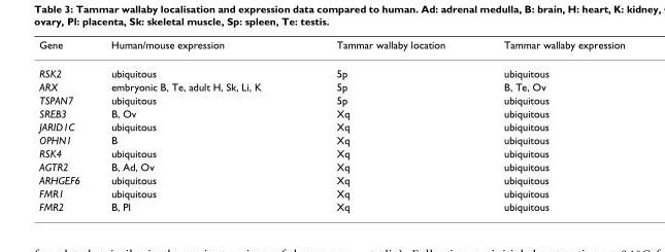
<table><thead><tr><td>Gene</td><td>Human/mouse expression</td><td>Tammar wallaby location</td><td>Tammar wallaby expression</td></tr></thead><tbody><tr><td>RSK2</td><td>ubiquitous</td><td>5p</td><td>ubiquitous</td></tr><tr><td>ARX</td><td>embryonic B, Te, adult H, Sk, Li, K</td><td>5p</td><td>B, Te, Ov</td></tr><tr><td>TSPAN7</td><td>ubiquitous</td><td>5p</td><td>ubiquitous</td></tr><tr><td>SREB3</td><td>B, Ov</td><td>Xq</td><td>ubiquitous</td></tr><tr><td>JARID1C</td><td>ubiquitous</td><td>Xq</td><td>ubiquitous</td></tr><tr><td>OPHN1</td><td>B</td><td>Xq</td><td>ubiquitous</td></tr><tr><td>RSK4</td><td>ubiquitous</td><td>Xq</td><td>ubiquitous</td></tr><tr><td>AGTR2</td><td>B, Ad, Ov</td><td>Xq</td><td>ubiquitous</td></tr><tr><td>ARHGEF6</td><td>ubiquitous</td><td>Xq</td><td>ubiquitous</td></tr><tr><td>FMR1</td><td>ubiquitous</td><td>Xq</td><td>ubiquitous</td></tr><tr><td>FMR2</td><td>B, Pl</td><td>Xq</td><td>ubiquitous</td></tr></tbody></table>